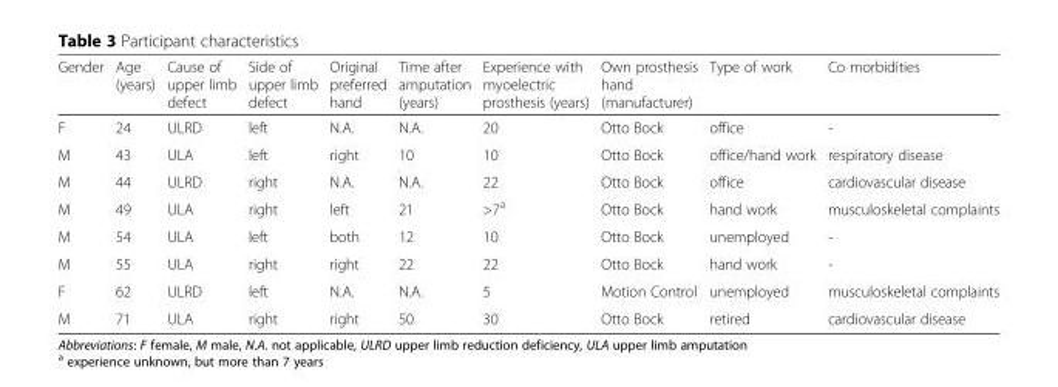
<table><thead><tr><td>Gender</td><td>Age (years)</td><td>Cause of upper limb defect</td><td>Side of upper limb defect</td><td>Original preferred hand</td><td>Time after amputation (years)</td><td>Experience with myoelectric prosthesis (years)</td><td>Own prosthesis hand (manufacturer)</td><td>Type of work</td><td>Co morbidities</td></tr></thead><tbody><tr><td>F</td><td>24</td><td>ULRD</td><td>left</td><td>N.A.</td><td>N.A.</td><td>20</td><td>Otto Bock</td><td>office</td><td>-</td></tr><tr><td>M</td><td>43</td><td>ULA</td><td>left</td><td>right</td><td>10</td><td>10</td><td>Otto Bock</td><td>office/hand work</td><td>respiratory disease</td></tr><tr><td>M</td><td>44</td><td>ULRD</td><td>right</td><td>N.A.</td><td>N.A.</td><td>22</td><td>Otto Bock</td><td>office</td><td>cardiovascular disease</td></tr><tr><td>M</td><td>49</td><td>ULA</td><td>right</td><td>left</td><td>21</td><td>&gt;7<sup>a</sup></td><td>Otto Bock</td><td>hand work</td><td>musculoskeletal complaints</td></tr><tr><td>M</td><td>54</td><td>ULA</td><td>left</td><td>both</td><td>12</td><td>10</td><td>Otto Bock</td><td>unemployed</td><td>-</td></tr><tr><td>M</td><td>55</td><td>ULA</td><td>right</td><td>right</td><td>22</td><td>22</td><td>Otto Bock</td><td>hand work</td><td>-</td></tr><tr><td>F</td><td>62</td><td>ULRD</td><td>left</td><td>N.A.</td><td>N.A.</td><td>5</td><td>Motion Control</td><td>unemployed</td><td>musculoskeletal complaints</td></tr><tr><td>M</td><td>71</td><td>ULA</td><td>right</td><td>right</td><td>50</td><td>30</td><td>Otto Bock</td><td>retired</td><td>cardiovascular disease</td></tr></tbody></table>